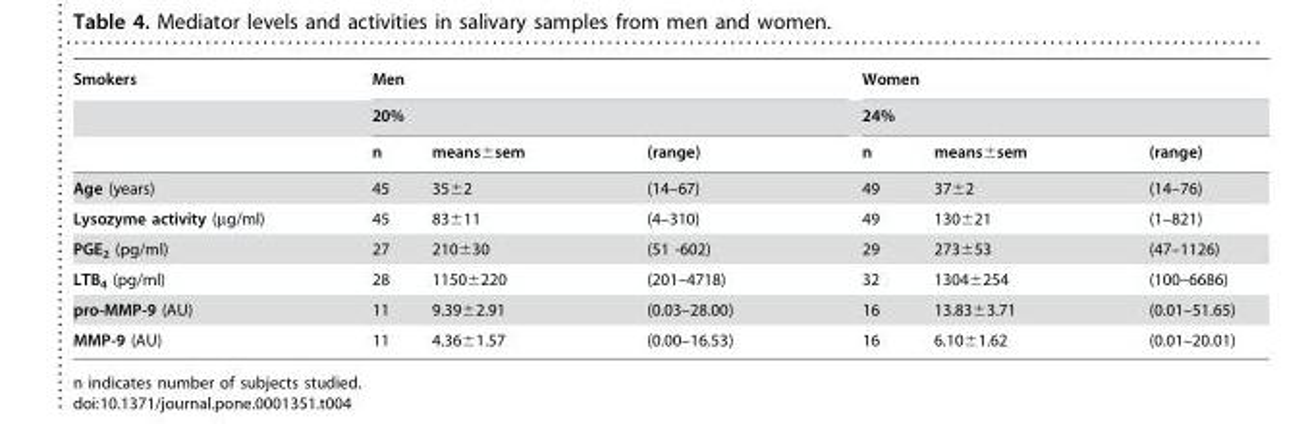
<table><thead><tr><td rowspan="3">Smokers</td><td rowspan="2" colspan="3">Men 20%</td><td rowspan="2" colspan="3">Women 24%</td></tr><tr></tr><tr><td>n</td><td>means±sem</td><td>(range)</td><td>n</td><td>means±sem</td><td>(range)</td></tr></thead><tbody><tr><td>Age (years)</td><td>45</td><td>35±2</td><td>(14–67)</td><td>49</td><td>37±2</td><td>(14–76)</td></tr><tr><td>Lysozyme activity (µg/ml)</td><td>45</td><td>83±11</td><td>(4–310)</td><td>49</td><td>130±21</td><td>(1–821)</td></tr><tr><td>PGE<sub>2</sub> (pg/ml)</td><td>27</td><td>210±30</td><td>(51 -602)</td><td>29</td><td>273±53</td><td>(47–1126)</td></tr><tr><td>LTB<sub>4</sub> (pg/ml)</td><td>28</td><td>1150±220</td><td>(201–4718)</td><td>32</td><td>1304±254</td><td>(100–6686)</td></tr><tr><td>pro-MMP-9 (AU)</td><td>11</td><td>9.39±2.91</td><td>(0.03–28.00)</td><td>16</td><td>13.83±3.71</td><td>(0.01–51.65)</td></tr><tr><td>MMP-9 (AU)</td><td>11</td><td>4.36±1.57</td><td>(0.00–16.53)</td><td>16</td><td>6.10±1.62</td><td>(0.01–20.01)</td></tr></tbody></table>